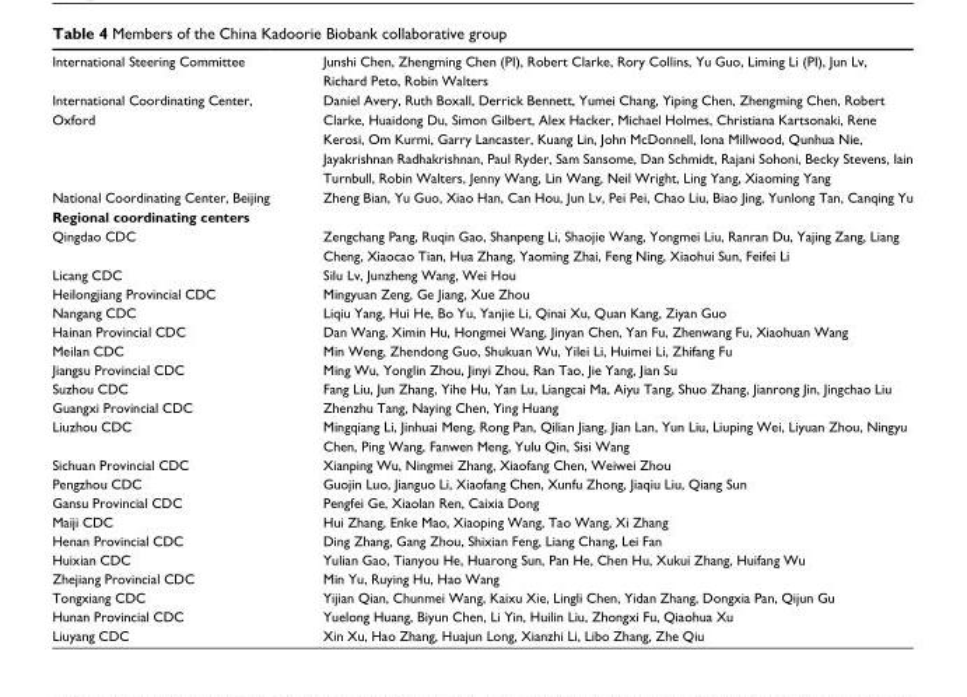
<table><tbody><tr><td>International steering Committee</td><td>Junshi Chen, Zhengming Chen (PI), Robert Clarke, Rory Collins, Yu Guo, Liming Li (PI), Jun Lv, Richard Peto, Robin Walters</td></tr><tr><td>International Coordinating Center, Oxford</td><td>Daniel Avery, Ruth Boxall, Derrick Bennett, Yumei Chang, Yiping Chen, Zhengming Chen, Robert Clarke, Huaidong Du, Simon Gilbert, Alex Hacker, Michael Holmes, Christiana Kartsonaki, Rene Kerosi, Om Kurmi, Garry Lancaster, Kuang Lin, John McDonnell, Iona Millwood, Qunhua Nie, Jayakrishnan Radhakrishnan, Paul Ryder, Sam Sansome, Dan Schmidt, Rajani Sohoni, Becky Stevens, Iain Turnbull, Robin Walters, Jenny Wang, Lin Wang, Neil Wright, Ling Yang, Xiaoming Yang</td></tr><tr><td>national Coordinating Center, Beijing</td><td>Zheng Bian, Yu guo, Xiao han, Can hou, Jun lv, Pei Pei, Chao liu, Biao Jing, Yunlong Tan, Canqing Yu</td></tr><tr><td colspan="2">Regional coordinating centers</td></tr><tr><td>Qingdao CDC</td><td>Zengchang Pang, ruqin gao, shanpeng li, shaojie Wang, Yongmei liu, ranran Du, Yajing Zang, liang Cheng, Xiaocao Tian, hua Zhang, Yaoming Zhai, Feng ning, Xiaohui sun, Feifei li</td></tr><tr><td>licang CDC</td><td>silu lv, Junzheng Wang, Wei hou</td></tr><tr><td>heilongjiang Provincial CDC</td><td>Mingyuan Zeng, Ge Jiang, Xue Zhou</td></tr><tr><td>nangang CDC</td><td>Liqiu Yang, Hui He, Bo Yu, Yanjie Li, Qinai Xu, Quan Kang, Ziyan Guo</td></tr><tr><td>hainan Provincial CDC</td><td>Dan Wang, Ximin Hu, Hongmei Wang, Jinyan Chen, Yan Fu, Zhenwang Fu, Xiaohuan Wang</td></tr><tr><td>Meilan CDC</td><td>Min Weng, Zhendong Guo, Shukuan Wu, Yilei Li, Huimei Li, Zhifang Fu</td></tr><tr><td>Jiangsu Provincial CDC</td><td>Ming Wu, Yonglin Zhou, Jinyi Zhou, Ran Tao, Jie Yang, Jian Su</td></tr><tr><td>suzhou CDC</td><td>Fang Liu, Jun Zhang, Yihe Hu, Yan Lu, Liangcai Ma, Aiyu Tang, Shuo Zhang, Jianrong Jin, Jingchao Liu</td></tr><tr><td>guangxi Provincial CDC</td><td>Zhenzhu Tang, Naying Chen, Ying Huang</td></tr><tr><td>liuzhou CDC</td><td>Mingqiang Li, Jinhuai Meng, Rong Pan, Qilian Jiang, Jian Lan, Yun Liu, Liuping Wei, Liyuan Zhou, Ningyu Chen, Ping Wang, Fanwen Meng, Yulu Qin, Sisi Wang</td></tr><tr><td>sichuan Provincial CDC</td><td>Xianping Wu, ningmei Zhang, Xiaofang Chen, Weiwei Zhou</td></tr><tr><td>Pengzhou CDC</td><td>Guojin Luo, Jianguo Li, Xiaofang Chen, Xunfu Zhong, Jiaqiu Liu, Qiang Sun</td></tr><tr><td>gansu Provincial CDC</td><td>Pengfei ge, Xiaolan ren, Caixia Dong</td></tr><tr><td>Maiji CDC</td><td>Hui Zhang, Enke Mao, Xiaoping Wang, Tao Wang, Xi Zhang</td></tr><tr><td>henan Provincial CDC</td><td>Ding Zhang, gang Zhou, shixian Feng, liang Chang, lei Fan</td></tr><tr><td>huixian CDC</td><td>Yulian Gao, Tianyou He, Huarong Sun, Pan He, Chen Hu, Xukui Zhang, Huifang Wu</td></tr><tr><td>Zhejiang Provincial CDC</td><td>Min Yu, Ruying Hu, Hao Wang</td></tr><tr><td>Tongxiang CDC</td><td>Yijian Qian, Chunmei Wang, Kaixu Xie, Lingli Chen, Yidan Zhang, Dongxia Pan, Qijun Gu</td></tr><tr><td>hunan Provincial CDC</td><td>Yuelong Huang, Biyun Chen, Li Yin, Huilin Liu, Zhongxi Fu, Qiaohua Xu</td></tr><tr><td>Liuyang CDC</td><td>Xin Xu, Hao Zhang, Huajun Long, Xianzhi Li, Libo Zhang, Zhe Qiu</td></tr></tbody></table>